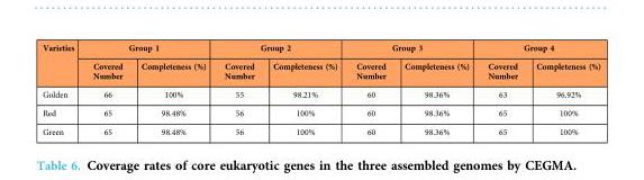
<table><thead><tr><td rowspan="2">Varieties</td><td colspan="2">Group 1</td><td colspan="2">Group 2</td><td colspan="2">Group 3</td><td colspan="2">Group 4</td></tr><tr><td>Covered Number</td><td>Completeness (%)</td><td>Covered Number</td><td>Completeness (%)</td><td>Covered Number</td><td>Completeness (%)</td><td>Covered Number</td><td>Completeness (%)</td></tr></thead><tbody><tr><td>Golden</td><td>66</td><td>100%</td><td>55</td><td>98.21%</td><td>60</td><td>98.36%</td><td>63</td><td>96.92%</td></tr><tr><td>Red</td><td>65</td><td>98.48%</td><td>56</td><td>100%</td><td>60</td><td>98.36%</td><td>65</td><td>100%</td></tr><tr><td>Green</td><td>65</td><td>98.48%</td><td>56</td><td>100%</td><td>60</td><td>98.36%</td><td>65</td><td>100%</td></tr></tbody></table>